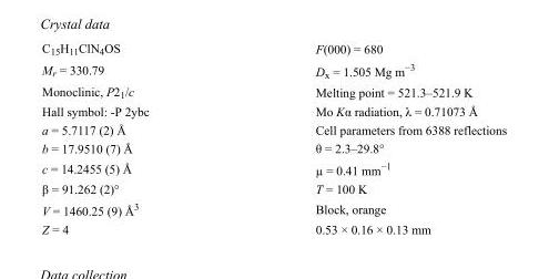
<table><tbody><tr><td>C<sub>15</sub>H<sub>11</sub>ClN<sub>4</sub>OS</td><td>F(000) = 680</td></tr><tr><td>M<sub>r</sub> = 330.79</td><td>D<sub>x</sub> = 1.505 Mg m<sup>−3</sup></td></tr><tr><td>Monoclinic, P2<sub>1</sub>/c</td><td>Melting point = 521.3–521.9 K</td></tr><tr><td>Hall symbol: -P 2ybc</td><td>Mo Kα radiation, λ = 0.71073 Å</td></tr><tr><td>a = 5.7117 (2) Å</td><td>Cell parameters from 6388 reflections</td></tr><tr><td>b = 17.9510 (7) Å</td><td>θ = 2.3–29.8°</td></tr><tr><td>c = 14.2455 (5) Å</td><td>µ = 0.41 mm<sup>−1</sup></td></tr><tr><td>β = 91.262 (2)°</td><td>T = 100 K</td></tr><tr><td>V = 1460.25 (9) Å<sup>3</sup></td><td>Block, orange</td></tr><tr><td>Z = 4</td><td>0.53 × 0.16 × 0.13 mm</td></tr></tbody></table>